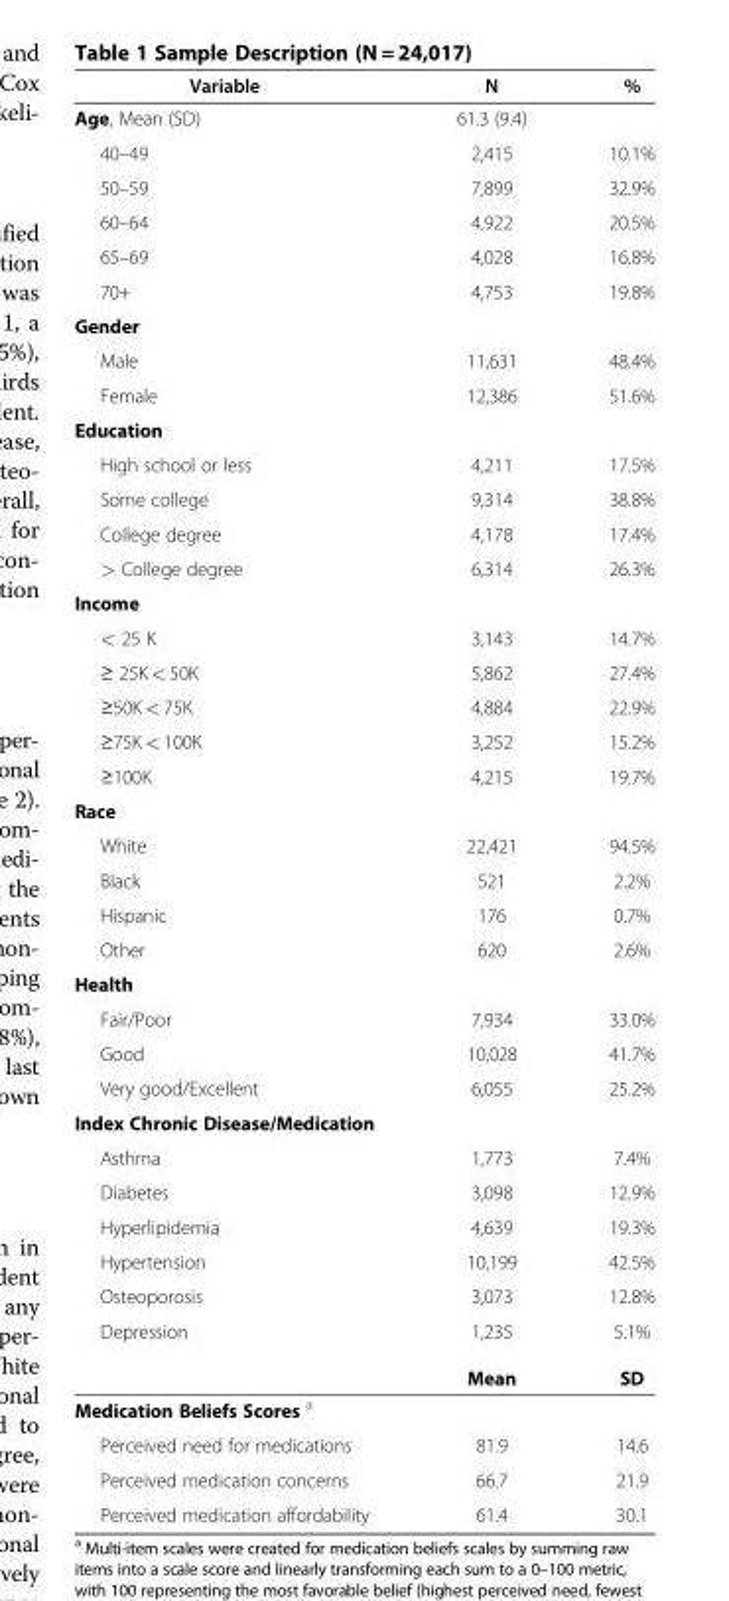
<table><thead><tr><td>Variable</td><td>N</td><td>%</td></tr></thead><tbody><tr><td>Age, Mean (SD)</td><td>61.3 (9.4)</td><td></td></tr><tr><td>40–49</td><td>2,415</td><td>10.1%</td></tr><tr><td>50–59</td><td>7,899</td><td>32.9%</td></tr><tr><td>60–64</td><td>4,922</td><td>20.5%</td></tr><tr><td>65–69</td><td>4,028</td><td>16.8%</td></tr><tr><td>70+</td><td>4,753</td><td>19.8%</td></tr><tr><td colspan="3">Gender</td></tr><tr><td>Male</td><td>11,631</td><td>48.4%</td></tr><tr><td>Female</td><td>12,386</td><td>51.6%</td></tr><tr><td colspan="3">Education</td></tr><tr><td>High school or less</td><td>4,211</td><td>17.5%</td></tr><tr><td>Some college</td><td>9,314</td><td>38.8%</td></tr><tr><td>College degree</td><td>4,178</td><td>17.4%</td></tr><tr><td>&gt; College degree</td><td>6,314</td><td>26.3%</td></tr><tr><td colspan="3">Income</td></tr><tr><td>&lt; 25 K</td><td>3,143</td><td>14.7%</td></tr><tr><td>≥ 25K &lt; 50K</td><td>5,862</td><td>27.4%</td></tr><tr><td>≥50K &lt; 75K</td><td>4,884</td><td>22.9%</td></tr><tr><td>≥75K &lt; 100K</td><td>3,252</td><td>15.2%</td></tr><tr><td>≥100K</td><td>4,215</td><td>19.7%</td></tr><tr><td colspan="3">Race</td></tr><tr><td>White</td><td>22,421</td><td>94.5%</td></tr><tr><td>Black</td><td>521</td><td>2.2%</td></tr><tr><td>Hispanic</td><td>176</td><td>0.7%</td></tr><tr><td>Other</td><td>620</td><td>2.6%</td></tr><tr><td colspan="3">Health</td></tr><tr><td>Fair/Poor</td><td>7,934</td><td>33.0%</td></tr><tr><td>Good</td><td>10,028</td><td>41.7%</td></tr><tr><td>Very good/Excellent</td><td>6,055</td><td>25.2%</td></tr><tr><td colspan="3">Index Chronic Disease/Medication</td></tr><tr><td>Asthma</td><td>1,773</td><td>7.4%</td></tr><tr><td>Diabetes</td><td>3,098</td><td>12.9%</td></tr><tr><td>Hyperlipidemia</td><td>4,639</td><td>19.3%</td></tr><tr><td>Hypertension</td><td>10,199</td><td>42.5%</td></tr><tr><td>Osteoporosis</td><td>3,073</td><td>12.8%</td></tr><tr><td rowspan="2">Depression</td><td>1,235</td><td>5.1%</td></tr><tr><td>Mean</td><td>SD</td></tr><tr><td colspan="3">Medication Beliefs Scores <sup>a</sup></td></tr><tr><td>Perceived need for medications</td><td>81.9</td><td>14.6</td></tr><tr><td>Perceived medication concerns</td><td>66.7</td><td>21.9</td></tr><tr><td>Perceived medication affordability</td><td>61.4</td><td>30.1</td></tr></tbody></table>